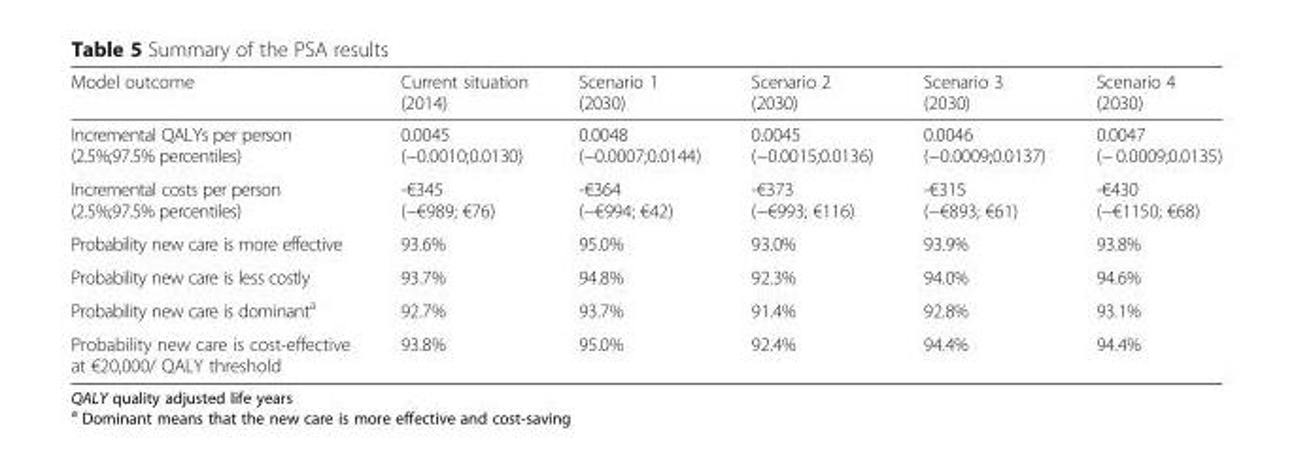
<table><thead><tr><td>Model outcome</td><td>Current situation (2014)</td><td>Scenario 1 (2030)</td><td>Scenario 2 (2030)</td><td>Scenario 3 (2030)</td><td>Scenario 4 (2030)</td></tr></thead><tbody><tr><td>Incremental QALYs per person (2.5%;97.5% percentiles)</td><td>0.0045 (−0.0010;0.0130)</td><td>0.0048 (−0.0007;0.0144)</td><td>0.0045 (−0.0015;0.0136)</td><td>0.0046 (−0.0009;0.0137)</td><td>0.0047 (− 0.0009;0.0135)</td></tr><tr><td>Incremental costs per person (2.5%;97.5% percentiles)</td><td>-€345 (−€989; €76)</td><td>-€364 (−€994; €42)</td><td>-€373 (−€993; €116)</td><td>-€315 (−€893; €61)</td><td>-€430 (−€1150; €68)</td></tr><tr><td>Probability new care is more effective</td><td>93.6%</td><td>95.0%</td><td>93.0%</td><td>93.9%</td><td>93.8%</td></tr><tr><td>Probability new care is less costly</td><td>93.7%</td><td>94.8%</td><td>92.3%</td><td>94.0%</td><td>94.6%</td></tr><tr><td>Probability new care is dominant<sup>a</sup></td><td>92.7%</td><td>93.7%</td><td>91.4%</td><td>92.8%</td><td>93.1%</td></tr><tr><td>Probability new care is cost-effective at €20,000/ QALY threshold</td><td>93.8%</td><td>95.0%</td><td>92.4%</td><td>94.4%</td><td>94.4%</td></tr></tbody></table>